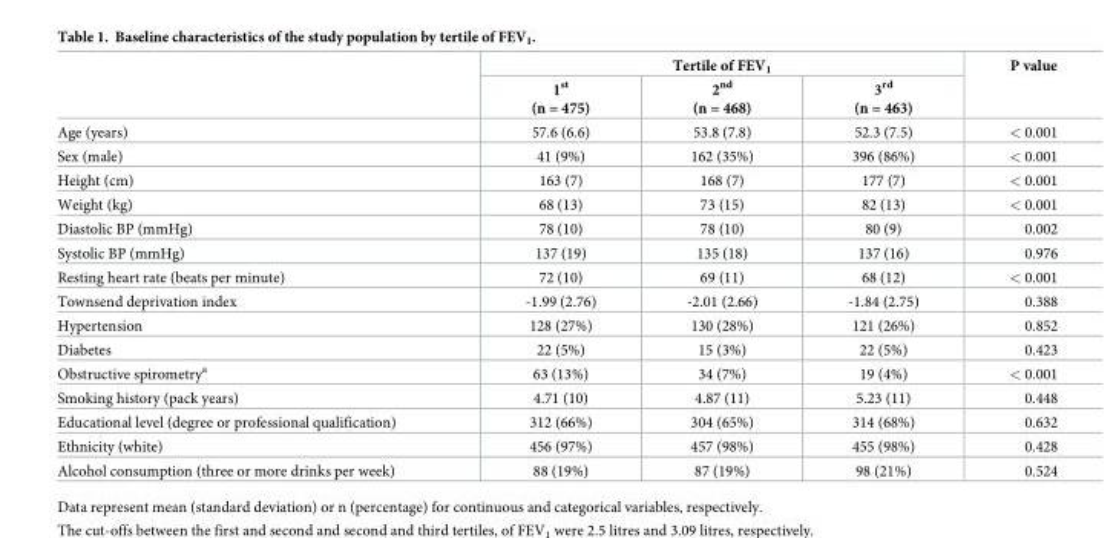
<table><thead><tr><td rowspan="2"></td><td colspan="3">Tertile of FEV<sub>1</sub></td><td rowspan="2">P value</td></tr><tr><td>1<sup>st</sup> (n = 475)</td><td>2<sup>nd</sup> (n = 468)</td><td>3<sup>rd</sup> (n = 463)</td></tr></thead><tbody><tr><td>Age (years)</td><td>57.6 (6.6)</td><td>53.8 (7.8)</td><td>52.3 (7.5)</td><td>&lt; 0.001</td></tr><tr><td>Sex (male)</td><td>41 (9%)</td><td>162 (35%)</td><td>396 (86%)</td><td>&lt; 0.001</td></tr><tr><td>Height (cm)</td><td>163 (7)</td><td>168 (7)</td><td>177 (7)</td><td>&lt; 0.001</td></tr><tr><td>Weight (kg)</td><td>68 (13)</td><td>73 (15)</td><td>82 (13)</td><td>&lt; 0.001</td></tr><tr><td>Diastolic BP (mmHg)</td><td>78 (10)</td><td>78 (10)</td><td>80 (9)</td><td>0.002</td></tr><tr><td>Systolic BP (mmHg)</td><td>137 (19)</td><td>135 (18)</td><td>137 (16)</td><td>0.976</td></tr><tr><td>Resting heart rate (beats per minute)</td><td>72 (10)</td><td>69 (11)</td><td>68 (12)</td><td>&lt; 0.001</td></tr><tr><td>Townsend deprivation index</td><td>-1.99 (2.76)</td><td>-2.01 (2.66)</td><td>-1.84 (2.75)</td><td>0.388</td></tr><tr><td>Hypertension</td><td>128 (27%)</td><td>130 (28%)</td><td>121 (26%)</td><td>0.852</td></tr><tr><td>Diabetes</td><td>22 (5%)</td><td>15 (3%)</td><td>22 (5%)</td><td>0.423</td></tr><tr><td>Obstructive spirometry<sup>a</sup></td><td>63 (13%)</td><td>34 (7%)</td><td>19 (4%)</td><td>&lt; 0.001</td></tr><tr><td>Smoking history (pack years)</td><td>4.71 (10)</td><td>4.87 (11)</td><td>5.23 (11)</td><td>0.448</td></tr><tr><td>Educational level (degree or professional qualification)</td><td>312 (66%)</td><td>304 (65%)</td><td>314 (68%)</td><td>0.632</td></tr><tr><td>Ethnicity (white)</td><td>456 (97%)</td><td>457 (98%)</td><td>455 (98%)</td><td>0.428</td></tr><tr><td>Alcohol consumption (three or more drinks per week)</td><td>88 (19%)</td><td>87 (19%)</td><td>98 (21%)</td><td>0.524</td></tr></tbody></table>